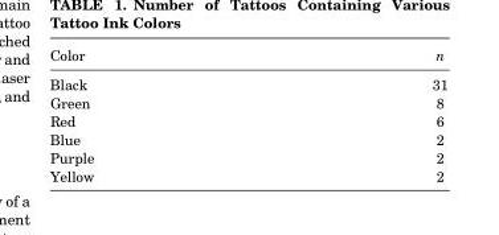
<table><thead><tr><td>Color</td><td>n</td></tr></thead><tbody><tr><td>Black</td><td>31</td></tr><tr><td>Green</td><td>8</td></tr><tr><td>Red</td><td>6</td></tr><tr><td>Blue</td><td>2</td></tr><tr><td>Purple</td><td>2</td></tr><tr><td>Yellow</td><td>2</td></tr></tbody></table>